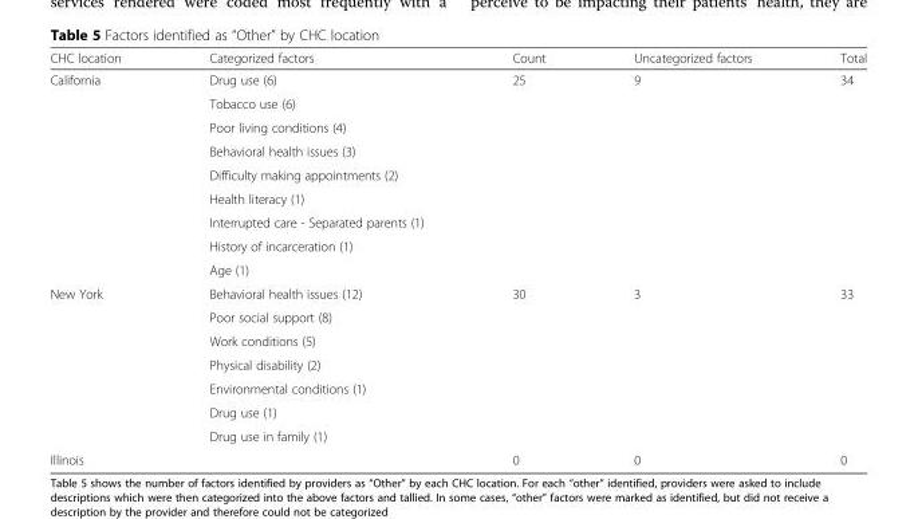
<table><thead><tr><td>CHC location</td><td>Categorized factors</td><td>Count</td><td>Uncategorized factors</td><td>Total</td></tr></thead><tbody><tr><td rowspan="9">California</td><td>Drug use (6)</td><td rowspan="9">25</td><td rowspan="9">9</td><td rowspan="9">34</td></tr><tr><td>Tobacco use (6)</td></tr><tr><td>Poor living conditions (4)</td></tr><tr><td>Behavioral health issues (3)</td></tr><tr><td>Difficulty making appointments (2)</td></tr><tr><td>Health literacy (1)</td></tr><tr><td>Interrupted care - Separated parents (1)</td></tr><tr><td>History of incarceration (1)</td></tr><tr><td>Age (1)</td></tr><tr><td rowspan="7">New York</td><td>Behavioral health issues (12)</td><td rowspan="7">30</td><td rowspan="7">3</td><td rowspan="7">33</td></tr><tr><td>Poor social support (8)</td></tr><tr><td>Work conditions (5)</td></tr><tr><td>Physical disability (2)</td></tr><tr><td>Environmental conditions (1)</td></tr><tr><td>Drug use (1)</td></tr><tr><td>Drug use in family (1)</td></tr><tr><td>Illinois</td><td></td><td>0</td><td>0</td><td>0</td></tr></tbody></table>